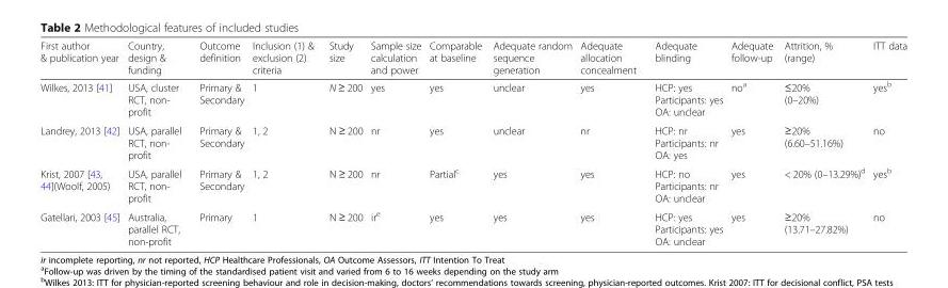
<table><thead><tr><td>First author &amp; publication year</td><td>Country, design &amp; funding</td><td>Outcome definition</td><td>Inclusion (1) &amp; exclusion (2) criteria</td><td>Study size</td><td>Sample size calculation and power</td><td>Comparable at baseline</td><td>Adequate random sequence generation</td><td>Adequate allocation concealment</td><td>Adequate blinding</td><td>Adequate follow-up</td><td>Attrition, % (range)</td><td>ITT data</td></tr></thead><tbody><tr><td>Wilkes, 2013 [41]</td><td>USA, cluster RCT, non- profit</td><td>Primary &amp; Secondary</td><td>1</td><td>N ≥ 200</td><td>yes</td><td>yes</td><td>unclear</td><td>yes</td><td>HCP: yes Participants: yes OA: unclear</td><td>no<sup>a</sup></td><td>≤20% (0–20%)</td><td>yes<sup>b</sup></td></tr><tr><td>Landrey, 2013 [42]</td><td>USA, parallel RCT, non- profit</td><td>Primary &amp; Secondary</td><td>1, 2</td><td>N ≥ 200</td><td>nr</td><td>yes</td><td>unclear</td><td>nr</td><td>HCP: nr Participants: nr OA: yes</td><td>yes</td><td>≥20% (6.60–51.16%)</td><td>no</td></tr><tr><td>Krist, 2007 [43, 44](Woolf, 2005)</td><td>USA, parallel RCT, non- profit</td><td>Primary &amp; Secondary</td><td>1, 2</td><td>N ≥ 200</td><td>nr</td><td>Partial<sup>c</sup></td><td>yes</td><td>yes</td><td>HCP: no Participants: nr OA: unclear</td><td>yes</td><td>&lt; 20% (0–13.29%)<sup>d</sup></td><td>yes<sup>b</sup></td></tr><tr><td>Gatellari, 2003 [45]</td><td>Australia, parallel RCT, non-profit</td><td>Primary</td><td>1</td><td>N ≥ 200</td><td>ir<sup>e</sup></td><td>yes</td><td>yes</td><td>yes</td><td>HCP: yes Participants: yes OA: unclear</td><td>yes</td><td>≥20% (13.71–27.82%)</td><td>no</td></tr></tbody></table>